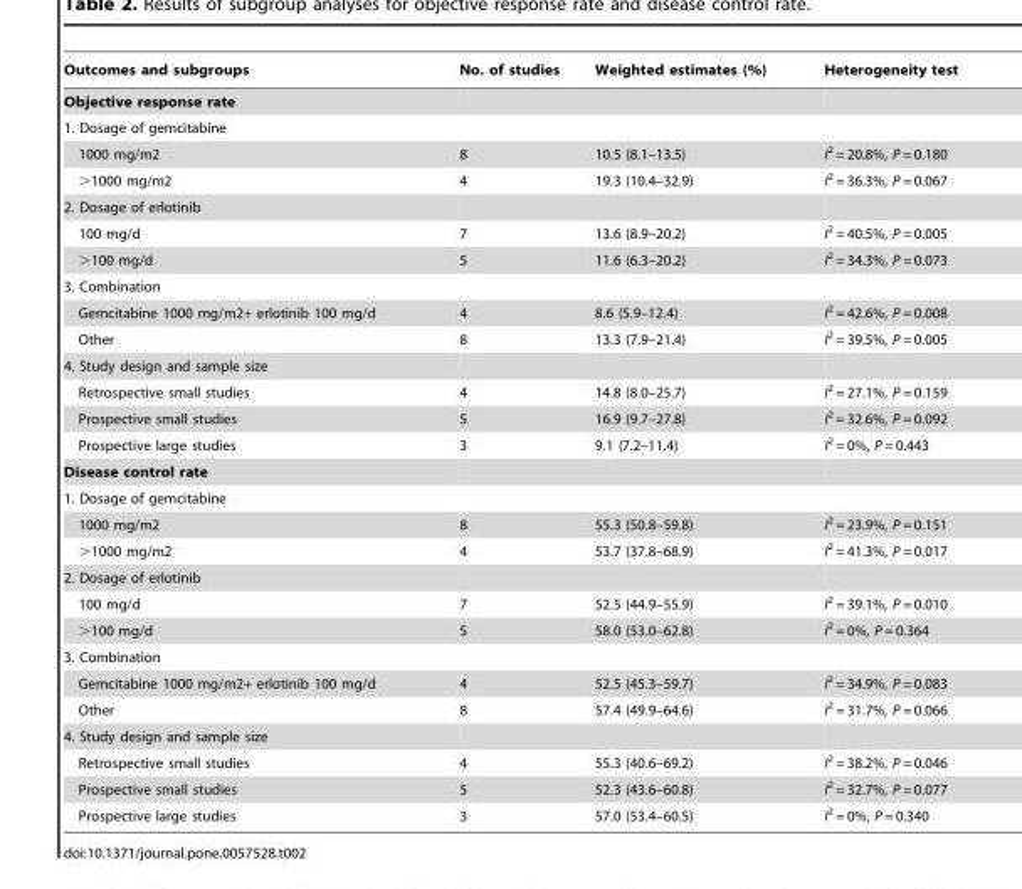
<table><thead><tr><td>Outcomes and subgroups</td><td>No. of studies</td><td>Weighted estimates (%)</td><td>Heterogeneity test</td></tr></thead><tbody><tr><td colspan="4">Objective response rate</td></tr><tr><td colspan="4">1. Dosage of gemcitabine</td></tr><tr><td>1000 mg/m2</td><td>8</td><td>10.5 (8.1–13.5)</td><td>I<sup>2</sup> = 20.8%, P = 0.180</td></tr><tr><td>&gt;1000 mg/m2</td><td>4</td><td>19.3 (10.4–32.9)</td><td>I<sup>2</sup> = 36.3%, P = 0.067</td></tr><tr><td colspan="4">2. Dosage of erlotinib</td></tr><tr><td>100 mg/d</td><td>7</td><td>13.6 (8.9–20.2)</td><td>I<sup>2</sup> = 40.5%, P = 0.005</td></tr><tr><td>&gt;100 mg/d</td><td>5</td><td>11.6 (6.3–20.2)</td><td>I<sup>2</sup> = 34.3%, P = 0.073</td></tr><tr><td colspan="4">3. Combination</td></tr><tr><td>Gemcitabine 1000 mg/m2+ erlotinib 100 mg/d</td><td>4</td><td>8.6 (5.9–12.4)</td><td>I<sup>2</sup> = 42.6%, P = 0.008</td></tr><tr><td>Other</td><td>8</td><td>13.3 (7.9–21.4)</td><td>I<sup>2</sup> = 39.5%, P = 0.005</td></tr><tr><td colspan="4">4. Study design and sample size</td></tr><tr><td>Retrospective small studies</td><td>4</td><td>14.8 (8.0–25.7)</td><td>I<sup>2</sup> = 27.1%, P = 0.159</td></tr><tr><td>Prospective small studies</td><td>5</td><td>16.9 (9.7–27.8)</td><td>I<sup>2</sup> = 32.6%, P = 0.092</td></tr><tr><td>Prospective large studies</td><td>3</td><td>9.1 (7.2–11.4)</td><td>I<sup>2</sup> = 0%, P = 0.443</td></tr><tr><td colspan="4">Disease control rate</td></tr><tr><td colspan="4">1. Dosage of gemcitabine</td></tr><tr><td>1000 mg/m2</td><td>8</td><td>55.3 (50.8–59.8)</td><td>I<sup>2</sup> = 23.9%, P = 0.151</td></tr><tr><td>&gt;1000 mg/m2</td><td>4</td><td>53.7 (37.8–68.9)</td><td>I<sup>2</sup> = 41.3%, P = 0.017</td></tr><tr><td colspan="4">2. Dosage of erlotinib</td></tr><tr><td>100 mg/d</td><td>7</td><td>52.5 (44.9–55.9)</td><td>I<sup>2</sup> = 39.1%, P = 0.010</td></tr><tr><td>&gt;100 mg/d</td><td>5</td><td>58.0 (53.0–62.8)</td><td>I<sup>2</sup> = 0%, P = 0.364</td></tr><tr><td colspan="4">3. Combination</td></tr><tr><td>Gemcitabine 1000 mg/m2+ erlotinib 100 mg/d</td><td>4</td><td>52.5 (45.3–59.7)</td><td>I<sup>2</sup> = 34.9%, P = 0.083</td></tr><tr><td>Other</td><td>8</td><td>57.4 (49.9–64.6)</td><td>I<sup>2</sup> = 31.7%, P = 0.066</td></tr><tr><td colspan="4">4. Study design and sample size</td></tr><tr><td>Retrospective small studies</td><td>4</td><td>55.3 (40.6–69.2)</td><td>I<sup>2</sup> = 38.2%, P = 0.046</td></tr><tr><td>Prospective small studies</td><td>5</td><td>52.3 (43.6–60.8)</td><td>I<sup>2</sup> = 32.7%, P = 0.077</td></tr><tr><td>Prospective large studies</td><td>3</td><td>57.0 (53.4–60.5)</td><td>I<sup>2</sup> = 0%, P = 0.340</td></tr></tbody></table>